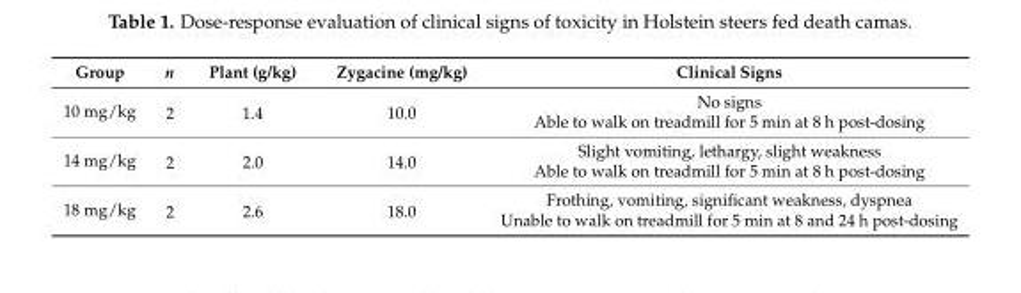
<table><thead><tr><td>Group</td><td>n</td><td>Plant (g/kg)</td><td>Zygacine (mg/kg)</td><td>Clinical Signs</td></tr></thead><tbody><tr><td rowspan="2">10 mg/kg</td><td rowspan="2">2</td><td rowspan="2">1.4</td><td rowspan="2">10.0</td><td>No signs</td></tr><tr><td>Able to walk on treadmill for 5 min at 8 h post-dosing</td></tr><tr><td rowspan="2">14 mg/kg</td><td rowspan="2">2</td><td rowspan="2">2.0</td><td rowspan="2">14.0</td><td>Slight vomiting, lethargy, slight weakness</td></tr><tr><td>Able to walk on treadmill for 5 min at 8 h post-dosing</td></tr><tr><td rowspan="2">18 mg/kg</td><td rowspan="2">2</td><td rowspan="2">2.6</td><td rowspan="2">18.0</td><td>Frothing, vomiting, significant weakness, dyspnea</td></tr><tr><td>Unable to walk on treadmill for 5 min at 8 and 24 h post-dosing</td></tr></tbody></table>